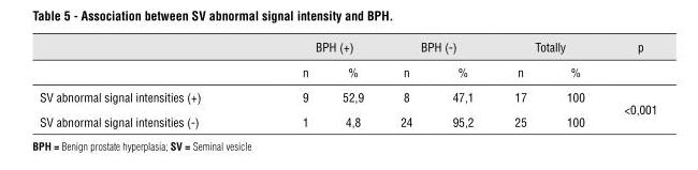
<table><thead><tr><td rowspan="2"></td><td colspan="2">BPH (+)</td><td colspan="2">BPH (-)</td><td colspan="2">Totally</td><td rowspan="2">p</td></tr><tr><td>n</td><td>%</td><td>n</td><td>%</td><td>n</td><td>%</td></tr></thead><tbody><tr><td>SV abnormal signal intensities (+)</td><td>9</td><td>52,9</td><td>8</td><td>47,1</td><td>17</td><td>100</td><td rowspan="2">&lt;0,001</td></tr><tr><td>SV abnormal signal intensities (-)</td><td>1</td><td>4,8</td><td>24</td><td>95,2</td><td>25</td><td>100</td></tr></tbody></table>